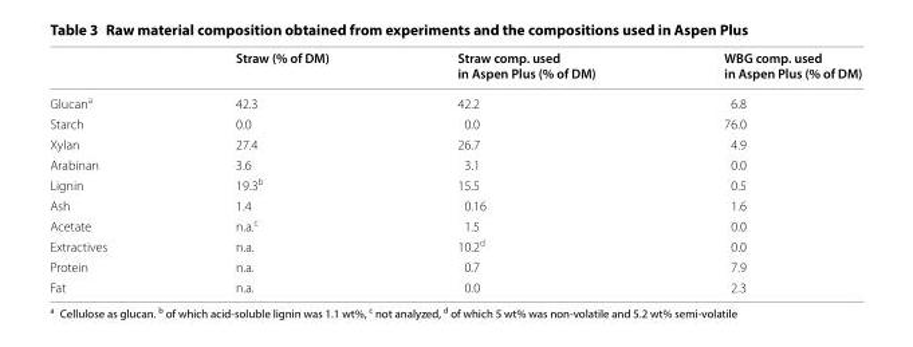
<table><thead><tr><td></td><td>Straw (% of DM)</td><td>Straw comp. used in Aspen Plus (% of DM)</td><td>WBG comp. used in Aspen Plus (% of DM)</td></tr></thead><tbody><tr><td>Glucan<sup>a</sup></td><td>42.3</td><td>42.2</td><td>6.8</td></tr><tr><td>Starch</td><td>0.0</td><td>0.0</td><td>76.0</td></tr><tr><td>Xylan</td><td>27.4</td><td>26.7</td><td>4.9</td></tr><tr><td>Arabinan</td><td>3.6</td><td>3.1</td><td>0.0</td></tr><tr><td>Lignin</td><td>19.3<sup>b</sup></td><td>15.5</td><td>0.5</td></tr><tr><td>Ash</td><td>1.4</td><td>0.16</td><td>1.6</td></tr><tr><td>Acetate</td><td>n.a.<sup>c</sup></td><td>1.5</td><td>0.0</td></tr><tr><td>Extractives</td><td>n.a.</td><td>10.2<sup>d</sup></td><td>0.0</td></tr><tr><td>Protein</td><td>n.a.</td><td>0.7</td><td>7.9</td></tr><tr><td>Fat</td><td>n.a.</td><td>0.0</td><td>2.3</td></tr></tbody></table>